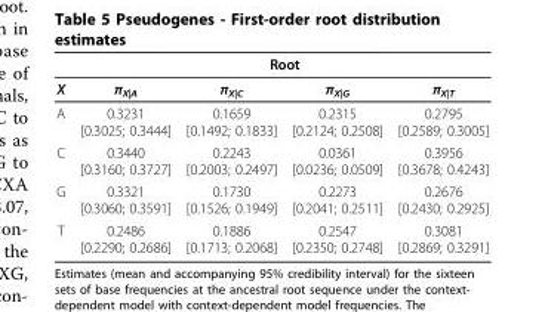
<table><thead><tr><td rowspan="2">X</td><td colspan="4">Root</td></tr><tr><td>π<sub>X|A</sub></td><td>π<sub>X|C</sub></td><td>π<sub>X|G</sub></td><td>π<sub>X|T</sub></td></tr></thead><tbody><tr><td>A</td><td>0.3231 [0.3025; 0.3444]</td><td>0.1659 [0.1492; 0.1833]</td><td>0.2315 [0.2124; 0.2508]</td><td>0.2795 [0.2589; 0.3005]</td></tr><tr><td>C</td><td>0.3440 [0.3160; 0.3727]</td><td>0.2243 [0.2003; 0.2497]</td><td>0.0361 [0.0236; 0.0509]</td><td>0.3956 [0.3678; 0.4243]</td></tr><tr><td>G</td><td>0.3321 [0.3060; 0.3591]</td><td>0.1730 [0.1526; 0.1949]</td><td>0.2273 [0.2041; 0.2511]</td><td>0.2676 [0.2430; 0.2925]</td></tr><tr><td>T</td><td>0.2486 [0.2290; 0.2686]</td><td>0.1886 [0.1713; 0.2068]</td><td>0.2547 [0.2350; 0.2748]</td><td>0.3081 [0.2869; 0.3291]</td></tr></tbody></table>